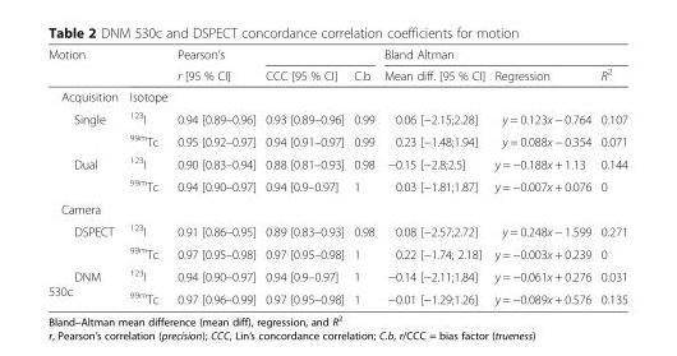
<table><thead><tr><td rowspan="2">Motion</td><td rowspan="2"></td><td rowspan="2">Pearson’s r [95 % CI]</td><td rowspan="2">CCC [95 % CI]</td><td rowspan="2">C.b</td><td colspan="3">Bland Altman</td></tr><tr><td>Mean diff. [95 % CI]</td><td>Regression</td><td>R<sup>2</sup></td></tr></thead><tbody><tr><td>Acquisition</td><td>Isotope</td><td></td><td></td><td></td><td></td><td></td><td></td></tr><tr><td rowspan="2">Single</td><td><sup>123</sup>I</td><td>0.94 [0.89–0.96]</td><td>0.93 [0.89–0.96]</td><td>0.99</td><td>0.06 [−2.15;2.28]</td><td>y = 0.123x − 0.764</td><td>0.107</td></tr><tr><td><sup>99m</sup>Tc</td><td>0.95 [0.92–0.97]</td><td>0.94 [0.91–0.97]</td><td>0.99</td><td>0.23 [−1.48;1.94]</td><td>y = 0.088x − 0.354</td><td>0.071</td></tr><tr><td rowspan="2">Dual</td><td><sup>123</sup>I</td><td>0.90 [0.83–0.94]</td><td>0.88 [0.81–0.93]</td><td>0.98</td><td>−0.15 [−2.8;2.5]</td><td>y = −0.188x + 1.13</td><td>0.144</td></tr><tr><td><sup>99m</sup>Tc</td><td>0.94 [0.90–0.97]</td><td>0.94 [0.9–0.97]</td><td>1</td><td>0.03 [−1.81;1.87]</td><td>y = −0.007x + 0.076</td><td>0</td></tr><tr><td colspan="8">Camera</td></tr><tr><td rowspan="2">DSPECT</td><td><sup>123</sup>I</td><td>0.91 [0.86–0.95]</td><td>0.89 [0.83–0.93]</td><td>0.98</td><td>0.08 [−2.57;2.72]</td><td>y = 0.248x − 1.599</td><td>0.271</td></tr><tr><td><sup>99m</sup>Tc</td><td>0.97 [0.95–0.98]</td><td>0.97 [0.95–0.98]</td><td>1</td><td>0.22 [−1.74; 2.18]</td><td>y = −0.003x + 0.239</td><td>0</td></tr><tr><td rowspan="2">DNM 530c</td><td><sup>123</sup>I</td><td>0.94 [0.90–0.97]</td><td>0.94 [0.9–0.97]</td><td>1</td><td>−0.14 [−2.11;1.84]</td><td>y = −0.061x + 0.276</td><td>0.031</td></tr><tr><td><sup>99m</sup>Tc</td><td>0.97 [0.96–0.99]</td><td>0.97 [0.95–0.98]</td><td>1</td><td>−0.01 [−1.29;1.26]</td><td>y = −0.089x + 0.576</td><td>0.135</td></tr></tbody></table>